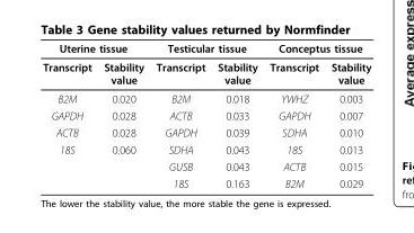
<table><thead><tr><td colspan="2">Uterine tissue</td><td colspan="2">Testicular tissue</td><td colspan="2">Conceptus tissue</td></tr><tr><td>Transcript</td><td>Stability value</td><td>Transcript</td><td>Stability value</td><td>Transcript</td><td>Stability value</td></tr></thead><tbody><tr><td>B2M</td><td>0.020</td><td>B2M</td><td>0.018</td><td>YWHZ</td><td>0.003</td></tr><tr><td>GAPDH</td><td>0.028</td><td>ACTB</td><td>0.033</td><td>GAPDH</td><td>0.007</td></tr><tr><td>ACTB</td><td>0.028</td><td>GAPDH</td><td>0.039</td><td>SDHA</td><td>0.010</td></tr><tr><td rowspan="3">18S</td><td>0.060</td><td>SDHA</td><td>0.043</td><td>18S</td><td>0.013</td></tr><tr><td></td><td>GUSB</td><td>0.043</td><td>ACTB</td><td>0.015</td></tr><tr><td></td><td>18S</td><td>0.163</td><td>B2M</td><td>0.029</td></tr></tbody></table>